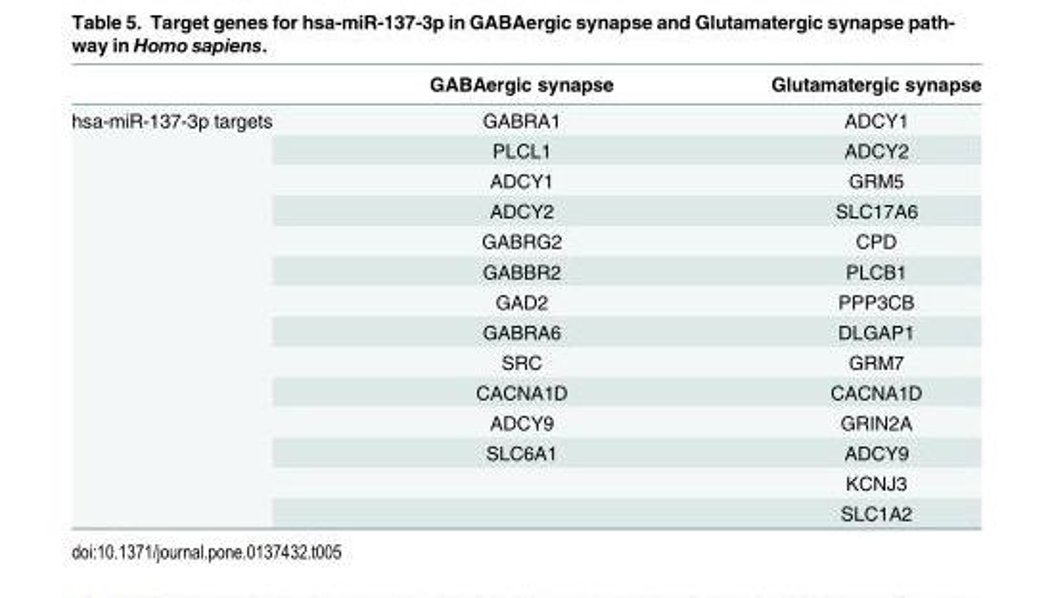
<table><thead><tr><td></td><td>GABAergic synapse</td><td>Glutamatergic synapse</td></tr></thead><tbody><tr><td rowspan="14">hsa-miR-137-3p targets</td><td>GABRA1</td><td>ADCY1</td></tr><tr><td>PLCL1</td><td>ADCY2</td></tr><tr><td>ADCY1</td><td>GRM5</td></tr><tr><td>ADCY2</td><td>SLC17A6</td></tr><tr><td>GABRG2</td><td>CPD</td></tr><tr><td>GABBR2</td><td>PLCB1</td></tr><tr><td>GAD2</td><td>PPP3CB</td></tr><tr><td>GABRA6</td><td>DLGAP1</td></tr><tr><td>SRC</td><td>GRM7</td></tr><tr><td>CACNA1D</td><td>CACNA1D</td></tr><tr><td>ADCY9</td><td>GRIN2A</td></tr><tr><td>SLC6A1</td><td>ADCY9</td></tr><tr><td></td><td>KCNJ3</td></tr><tr><td></td><td>SLC1A2</td></tr></tbody></table>